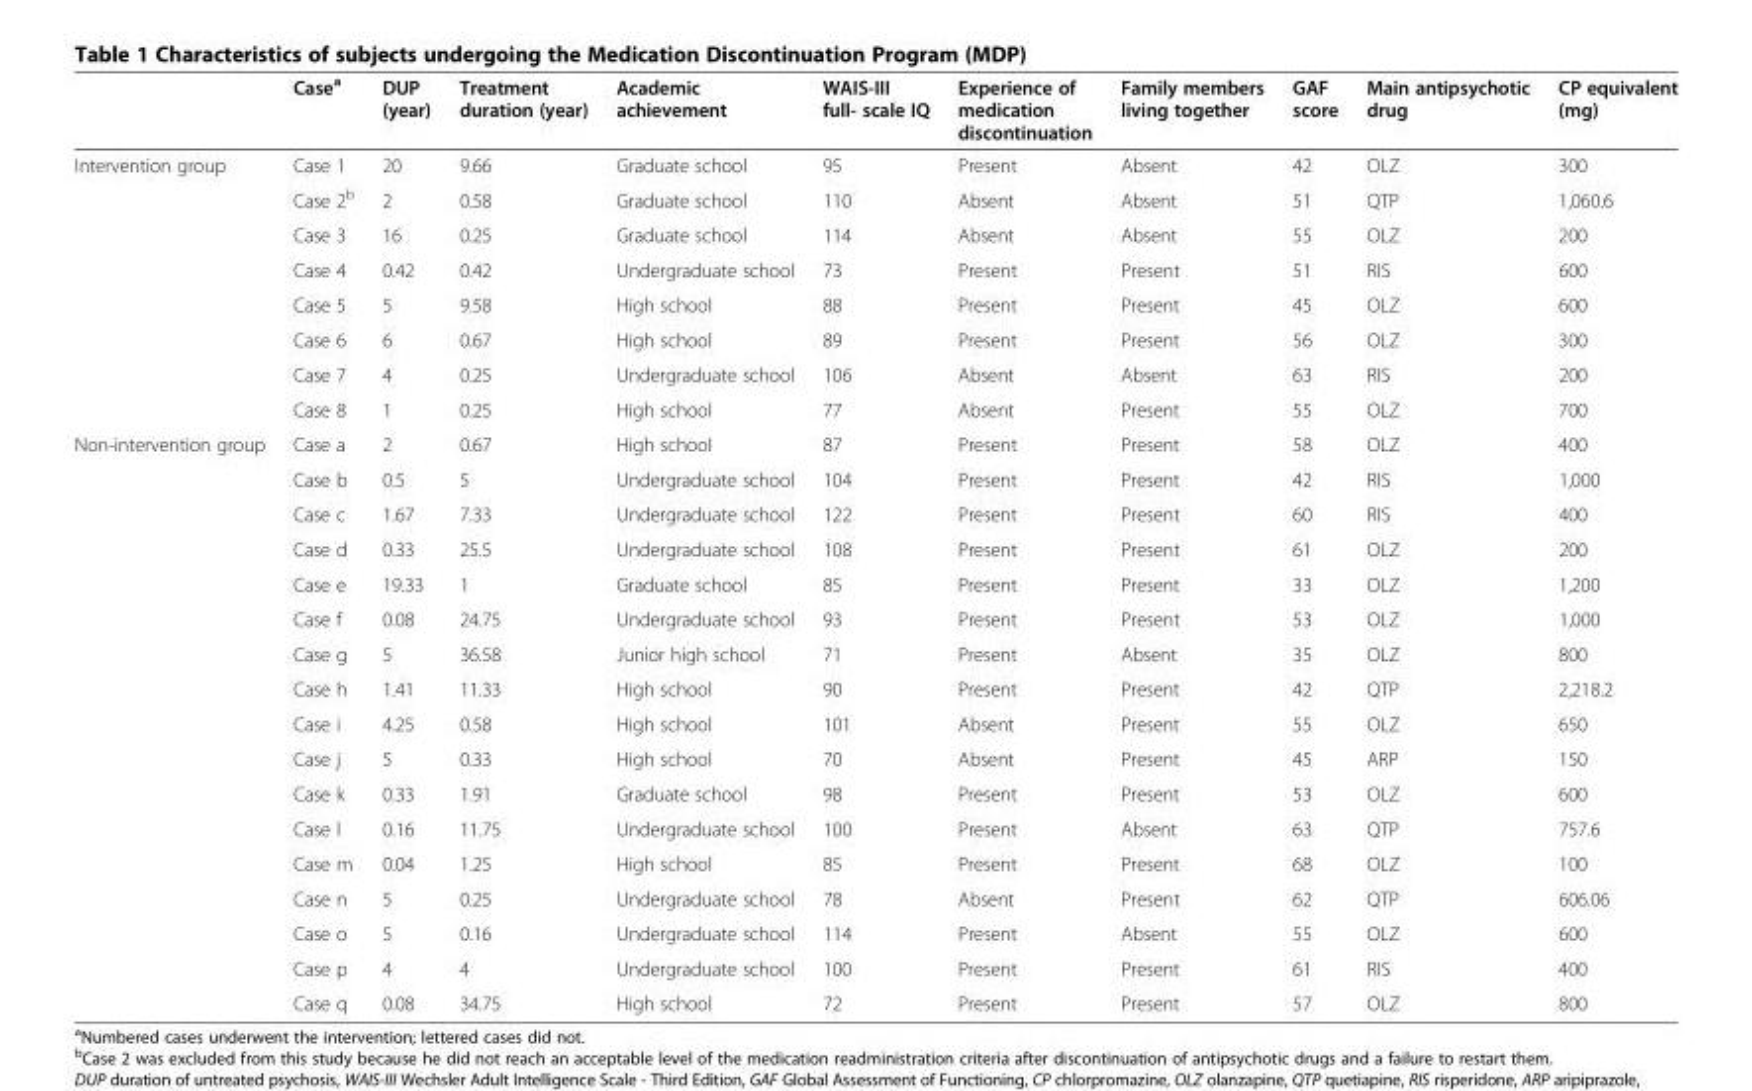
<table><thead><tr><td></td><td>Case<sup>a</sup></td><td>DUP (year)</td><td>Treatment duration (year)</td><td>Academic achievement</td><td>WAIS-III full- scale IQ</td><td>Experience of medication discontinuation</td><td>Family members living together</td><td>GAF score</td><td>Main antipsychotic drug</td><td>CP equivalent (mg)</td></tr></thead><tbody><tr><td rowspan="8">Intervention group</td><td>Case 1</td><td>20</td><td>9.66</td><td>Graduate school</td><td>95</td><td>Present</td><td>Absent</td><td>42</td><td>OLZ</td><td>300</td></tr><tr><td>Case 2<sup>b</sup></td><td>2</td><td>0.58</td><td>Graduate school</td><td>110</td><td>Absent</td><td>Absent</td><td>51</td><td>QTP</td><td>1,060.6</td></tr><tr><td>Case 3</td><td>16</td><td>0.25</td><td>Graduate school</td><td>114</td><td>Absent</td><td>Absent</td><td>55</td><td>OLZ</td><td>200</td></tr><tr><td>Case 4</td><td>0.42</td><td>0.42</td><td>Undergraduate school</td><td>73</td><td>Present</td><td>Present</td><td>51</td><td>RIS</td><td>600</td></tr><tr><td>Case 5</td><td>5</td><td>9.58</td><td>High school</td><td>88</td><td>Present</td><td>Present</td><td>45</td><td>OLZ</td><td>600</td></tr><tr><td>Case 6</td><td>6</td><td>0.67</td><td>High school</td><td>89</td><td>Present</td><td>Present</td><td>56</td><td>OLZ</td><td>300</td></tr><tr><td>Case 7</td><td>4</td><td>0.25</td><td>Undergraduate school</td><td>106</td><td>Absent</td><td>Absent</td><td>63</td><td>RIS</td><td>200</td></tr><tr><td>Case 8</td><td>1</td><td>0.25</td><td>High school</td><td>77</td><td>Absent</td><td>Present</td><td>55</td><td>OLZ</td><td>700</td></tr><tr><td rowspan="17">Non-intervention group</td><td>Case a</td><td>2</td><td>0.67</td><td>High school</td><td>87</td><td>Present</td><td>Present</td><td>58</td><td>OLZ</td><td>400</td></tr><tr><td>Case b</td><td>0.5</td><td>5</td><td>Undergraduate school</td><td>104</td><td>Present</td><td>Present</td><td>42</td><td>RIS</td><td>1,000</td></tr><tr><td>Case c</td><td>1.67</td><td>7.33</td><td>Undergraduate school</td><td>122</td><td>Present</td><td>Present</td><td>60</td><td>RIS</td><td>400</td></tr><tr><td>Case d</td><td>0.33</td><td>25.5</td><td>Undergraduate school</td><td>108</td><td>Present</td><td>Present</td><td>61</td><td>OLZ</td><td>200</td></tr><tr><td>Case e</td><td>19.33</td><td>1</td><td>Graduate school</td><td>85</td><td>Present</td><td>Present</td><td>33</td><td>OLZ</td><td>1,200</td></tr><tr><td>Case f</td><td>0.08</td><td>24.75</td><td>Undergraduate school</td><td>93</td><td>Present</td><td>Present</td><td>53</td><td>OLZ</td><td>1,000</td></tr><tr><td>Case g</td><td>5</td><td>36.58</td><td>Junior high school</td><td>71</td><td>Present</td><td>Absent</td><td>35</td><td>OLZ</td><td>800</td></tr><tr><td>Case h</td><td>1.41</td><td>11.33</td><td>High school</td><td>90</td><td>Present</td><td>Present</td><td>42</td><td>QTP</td><td>2,218.2</td></tr><tr><td>Case i</td><td>4.25</td><td>0.58</td><td>High school</td><td>101</td><td>Absent</td><td>Present</td><td>55</td><td>OLZ</td><td>650</td></tr><tr><td>Case j</td><td>5</td><td>0.33</td><td>High school</td><td>70</td><td>Absent</td><td>Present</td><td>45</td><td>ARP</td><td>150</td></tr><tr><td>Case k</td><td>0.33</td><td>1.91</td><td>Graduate school</td><td>98</td><td>Present</td><td>Present</td><td>53</td><td>OLZ</td><td>600</td></tr><tr><td>Case l</td><td>0.16</td><td>11.75</td><td>Undergraduate school</td><td>100</td><td>Present</td><td>Absent</td><td>63</td><td>QTP</td><td>757.6</td></tr><tr><td>Case m</td><td>0.04</td><td>1.25</td><td>High school</td><td>85</td><td>Present</td><td>Present</td><td>68</td><td>OLZ</td><td>100</td></tr><tr><td>Case n</td><td>5</td><td>0.25</td><td>Undergraduate school</td><td>78</td><td>Absent</td><td>Present</td><td>62</td><td>QTP</td><td>606.06</td></tr><tr><td>Case o</td><td>5</td><td>0.16</td><td>Undergraduate school</td><td>114</td><td>Present</td><td>Absent</td><td>55</td><td>OLZ</td><td>600</td></tr><tr><td>Case p</td><td>4</td><td>4</td><td>Undergraduate school</td><td>100</td><td>Present</td><td>Present</td><td>61</td><td>RIS</td><td>400</td></tr><tr><td>Case q</td><td>0.08</td><td>34.75</td><td>High school</td><td>72</td><td>Present</td><td>Present</td><td>57</td><td>OLZ</td><td>800</td></tr></tbody></table>